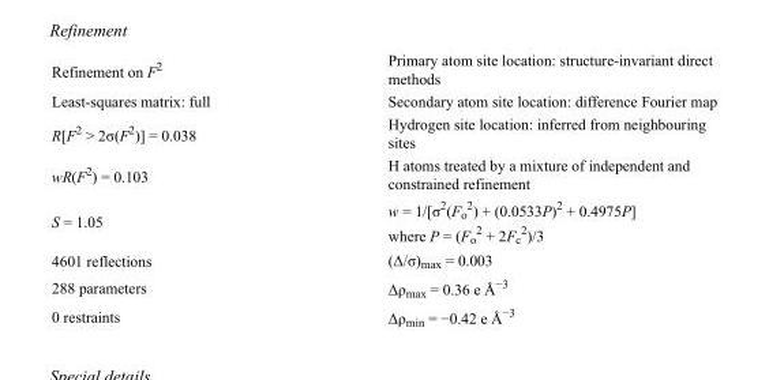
<table><tbody><tr><td>Refinement on F<sup>2</sup></td><td>Primary atom site location: structure-invariant direct methods</td></tr><tr><td>Least-squares matrix: full</td><td>Secondary atom site location: difference Fourier map</td></tr><tr><td>R[F<sup>2</sup> &gt; 2σ(F<sup>2</sup>)] = 0.038</td><td>Hydrogen site location: inferred from neighbouring sites</td></tr><tr><td>wR(F<sup>2</sup>) = 0.103</td><td>H atoms treated by a mixture of independent and constrained refinement</td></tr><tr><td>S = 1.05</td><td>w = 1/[σ<sup>2</sup>(F<sub>o</sub> <sup>2</sup>) + (0.0533P)<sup>2</sup> + 0.4975P] where P = (F<sub>o</sub> <sup>2</sup> + 2F<sub>c</sub> <sup>2</sup>)/3</td></tr><tr><td>4601 reflections</td><td>(Δ/σ)<sub>max</sub> = 0.003</td></tr><tr><td>288 parameters</td><td>Δρ<sub>max</sub> = 0.36 e Å<sup>−3</sup></td></tr><tr><td>0 restraints</td><td>Δρ<sub>min</sub> = −0.42 e Å<sup>−3</sup></td></tr></tbody></table>